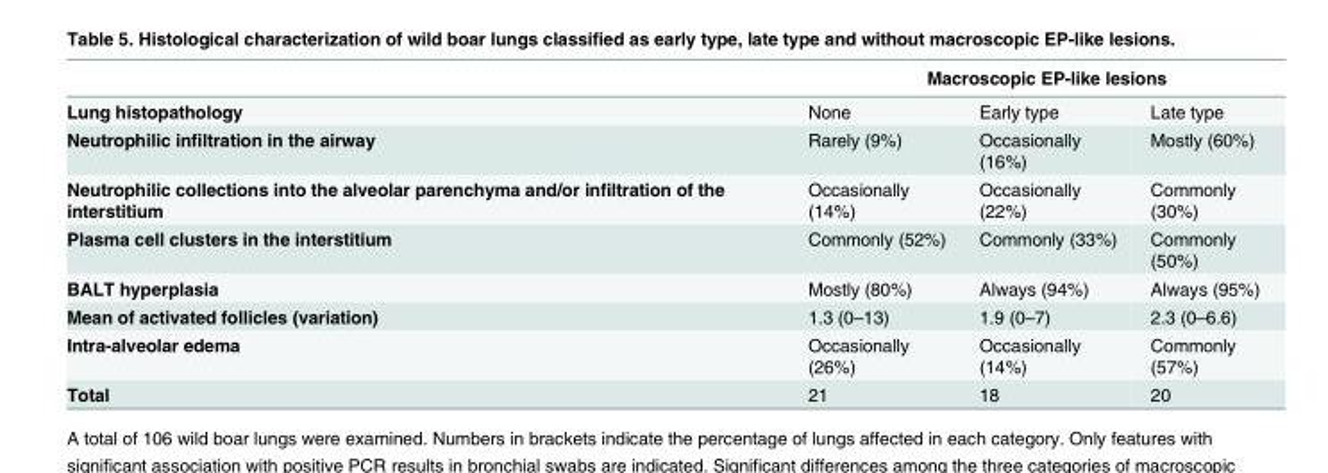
<table><thead><tr><td rowspan="2">Lung histopathology</td><td colspan="3">Macroscopic EP-like lesions</td></tr><tr><td>None</td><td>Early type</td><td>Late type</td></tr></thead><tbody><tr><td>Neutrophilic infiltration in the airway</td><td>Rarely (9%)</td><td>Occasionally (16%)</td><td>Mostly (60%)</td></tr><tr><td>Neutrophilic collections into the alveolar parenchyma and/or infiltration of the interstitium</td><td>Occasionally (14%)</td><td>Occasionally (22%)</td><td>Commonly (30%)</td></tr><tr><td>Plasma cell clusters in the interstitium</td><td>Commonly (52%)</td><td>Commonly (33%)</td><td>Commonly (50%)</td></tr><tr><td>BALT hyperplasia</td><td>Mostly (80%)</td><td>Always (94%)</td><td>Always (95%)</td></tr><tr><td>Mean of activated follicles (variation)</td><td>1.3 (0–13)</td><td>1.9 (0–7)</td><td>2.3 (0–6.6)</td></tr><tr><td>Intra-alveolar edema</td><td>Occasionally (26%)</td><td>Occasionally (14%)</td><td>Commonly (57%)</td></tr><tr><td>Total</td><td>21</td><td>18</td><td>20</td></tr></tbody></table>